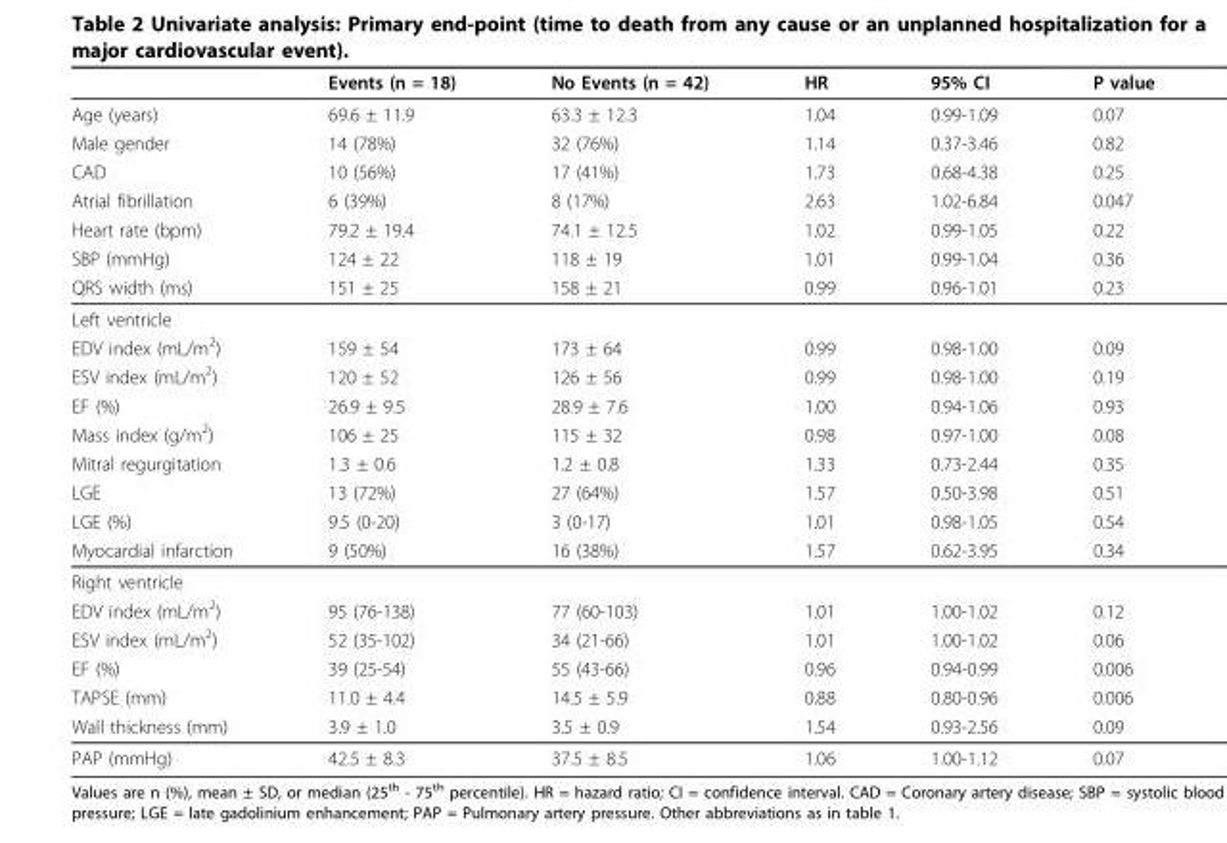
<table><thead><tr><td></td><td>Events (n = 18)</td><td>No Events (n = 42)</td><td>HR</td><td>95% CI</td><td>P value</td></tr></thead><tbody><tr><td>Age (years)</td><td>69.6 ± 11.9</td><td>63.3 ± 12.3</td><td>1.04</td><td>0.99-1.09</td><td>0.07</td></tr><tr><td>Male gender</td><td>14 (78%)</td><td>32 (76%)</td><td>1.14</td><td>0.37-3.46</td><td>0.82</td></tr><tr><td>CAD</td><td>10 (56%)</td><td>17 (41%)</td><td>1.73</td><td>0.68-4.38</td><td>0.25</td></tr><tr><td>Atrial fibrillation</td><td>6 (39%)</td><td>8 (17%)</td><td>2.63</td><td>1.02-6.84</td><td>0.047</td></tr><tr><td>Heart rate (bpm)</td><td>79.2 ± 19.4</td><td>74.1 ± 12.5</td><td>1.02</td><td>0.99-1.05</td><td>0.22</td></tr><tr><td>SBP (mmHg)</td><td>124 ± 22</td><td>118 ± 19</td><td>1.01</td><td>0.99-1.04</td><td>0.36</td></tr><tr><td>QRS width (ms)</td><td>151 ± 25</td><td>158 ± 21</td><td>0.99</td><td>0.96-1.01</td><td>0.23</td></tr><tr><td colspan="6">Left ventricle</td></tr><tr><td>EDV index (mL/m<sup>2</sup>)</td><td>159 ± 54</td><td>173 ± 64</td><td>0.99</td><td>0.98-1.00</td><td>0.09</td></tr><tr><td>ESV index (mL/m<sup>2</sup>)</td><td>120 ± 52</td><td>126 ± 56</td><td>0.99</td><td>0.98-1.00</td><td>0.19</td></tr><tr><td>EF (%)</td><td>26.9 ± 9.5</td><td>28.9 ± 7.6</td><td>1.00</td><td>0.94-1.06</td><td>0.93</td></tr><tr><td>Mass index (g/m<sup>2</sup>)</td><td>106 ± 25</td><td>115 ± 32</td><td>0.98</td><td>0.97-1.00</td><td>0.08</td></tr><tr><td>Mitral regurgitation</td><td>1.3 ± 0.6</td><td>1.2 ± 0.8</td><td>1.33</td><td>0.73-2.44</td><td>0.35</td></tr><tr><td>LGE</td><td>13 (72%)</td><td>27 (64%)</td><td>1.57</td><td>0.50-3.98</td><td>0.51</td></tr><tr><td>LGE (%)</td><td>9.5 (0-20)</td><td>3 (0-17)</td><td>1.01</td><td>0.98-1.05</td><td>0.54</td></tr><tr><td>Myocardial infarction</td><td>9 (50%)</td><td>16 (38%)</td><td>1.57</td><td>0.62-3.95</td><td>0.34</td></tr><tr><td colspan="6">Right ventricle</td></tr><tr><td>EDV index (mL/m<sup>2</sup>)</td><td>95 (76-138)</td><td>77 (60-103)</td><td>1.01</td><td>1.00-1.02</td><td>0.12</td></tr><tr><td>ESV index (mL/m<sup>2</sup>)</td><td>52 (35-102)</td><td>34 (21-66)</td><td>1.01</td><td>1.00-1.02</td><td>0.06</td></tr><tr><td>EF (%)</td><td>39 (25-54)</td><td>55 (43-66)</td><td>0.96</td><td>0.94-0.99</td><td>0.006</td></tr><tr><td>TAPSE (mm)</td><td>11.0 ± 4.4</td><td>14.5 ± 5.9</td><td>0.88</td><td>0.80-0.96</td><td>0.006</td></tr><tr><td>Wall thickness (mm)</td><td>3.9 ± 1.0</td><td>3.5 ± 0.9</td><td>1.54</td><td>0.93-2.56</td><td>0.09</td></tr><tr><td>PAP (mmHg)</td><td>42.5 ± 8.3</td><td>37.5 ± 8.5</td><td>1.06</td><td>1.00-1.12</td><td>0.07</td></tr></tbody></table>